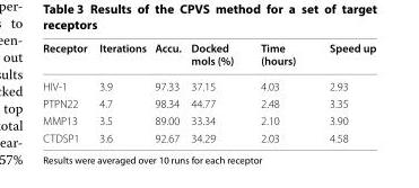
<table><thead><tr><td>Receptor</td><td>Iterations</td><td>Accu.</td><td>Docked mols (%)</td><td>Time (hours)</td><td>Speed up</td></tr></thead><tbody><tr><td>HIV-1</td><td>3.9</td><td>97.33</td><td>37.15</td><td>4.03</td><td>2.93</td></tr><tr><td>PTPN22</td><td>4.7</td><td>98.34</td><td>44.77</td><td>2.48</td><td>3.35</td></tr><tr><td>MMP13</td><td>3.5</td><td>89.00</td><td>33.34</td><td>2.10</td><td>3.90</td></tr><tr><td>CTDSP1</td><td>3.6</td><td>92.67</td><td>34.29</td><td>2.03</td><td>4.58</td></tr></tbody></table>